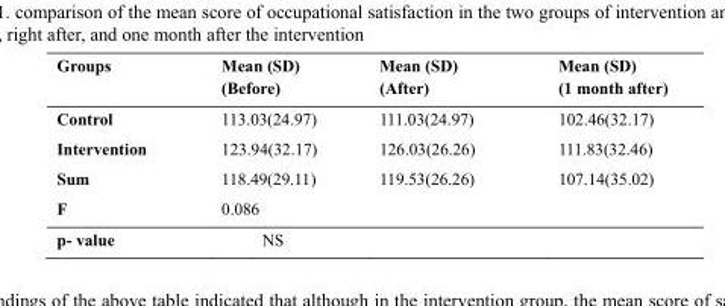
<table><thead><tr><td>Groups</td><td>Mean (SD) (Before)</td><td>Mean (SD) (After)</td><td>Mean (SD) (1 month after)</td></tr></thead><tbody><tr><td>Control</td><td>113.03(24.97)</td><td>111.03(24.97)</td><td>102.46(32.17)</td></tr><tr><td>Intervention</td><td>123.94(32.17)</td><td>126.03(26.26)</td><td>111.83(32.46)</td></tr><tr><td>Sum</td><td>118.49(29.11)</td><td>119.53(26.26)</td><td>107.14(35.02)</td></tr><tr><td>F</td><td>0.086</td><td></td><td></td></tr><tr><td>p- value</td><td colspan="3">NS</td></tr></tbody></table>